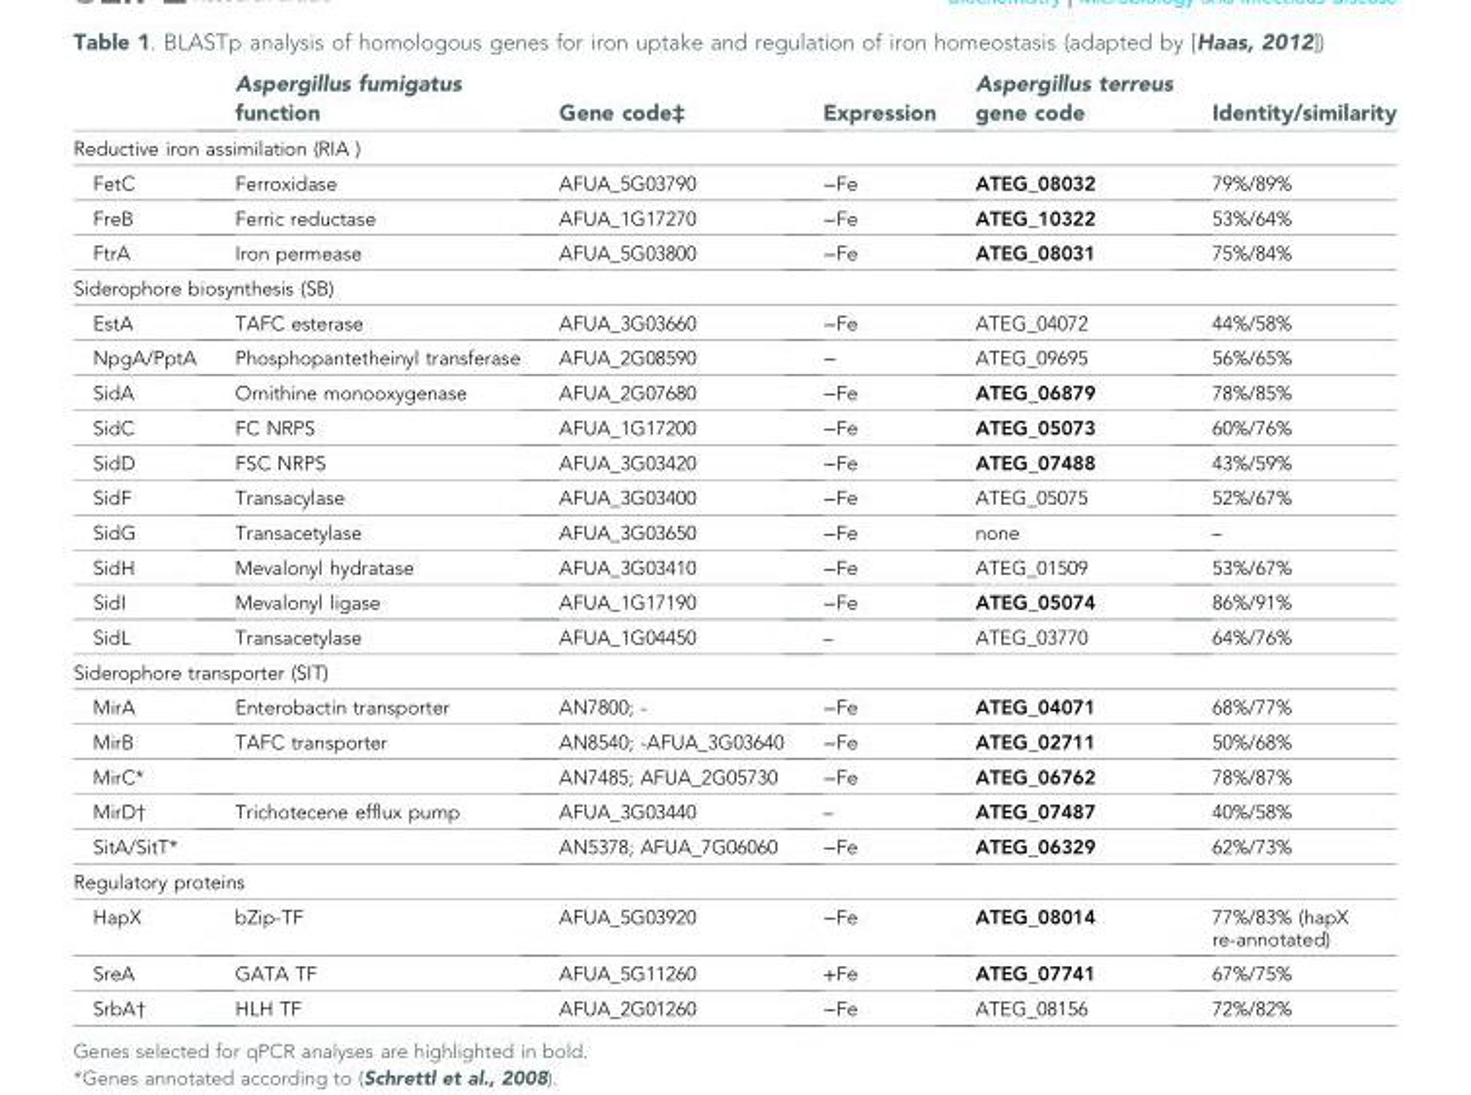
<table><thead><tr><td></td><td>Aspergillus fumigatus function</td><td>Gene code‡</td><td>Expression</td><td>Aspergillus terreus gene code</td><td>Identity/similarity</td></tr></thead><tbody><tr><td colspan="6">Reductive iron assimilation (RIA )</td></tr><tr><td>FetC</td><td>Ferroxidase</td><td>AFUA_5G03790</td><td>−Fe</td><td>ATEG_08032</td><td>79%/89%</td></tr><tr><td>FreB</td><td>Ferric reductase</td><td>AFUA_1G17270</td><td>−Fe</td><td>ATEG_10322</td><td>53%/64%</td></tr><tr><td>FtrA</td><td>Iron permease</td><td>AFUA_5G03800</td><td>−Fe</td><td>ATEG_08031</td><td>75%/84%</td></tr><tr><td colspan="6">Siderophore biosynthesis (SB)</td></tr><tr><td>EstA</td><td>TAFC esterase</td><td>AFUA_3G03660</td><td>−Fe</td><td>ATEG_04072</td><td>44%/58%</td></tr><tr><td>NpgA/PptA</td><td>Phosphopantetheinyl transferase</td><td>AFUA_2G08590</td><td>−</td><td>ATEG_09695</td><td>56%/65%</td></tr><tr><td>SidA</td><td>Ornithine monooxygenase</td><td>AFUA_2G07680</td><td>−Fe</td><td>ATEG_06879</td><td>78%/85%</td></tr><tr><td>SidC</td><td>FC NRPS</td><td>AFUA_1G17200</td><td>−Fe</td><td>ATEG_05073</td><td>60%/76%</td></tr><tr><td>SidD</td><td>FSC NRPS</td><td>AFUA_3G03420</td><td>−Fe</td><td>ATEG_07488</td><td>43%/59%</td></tr><tr><td>SidF</td><td>Transacylase</td><td>AFUA_3G03400</td><td>−Fe</td><td>ATEG_05075</td><td>52%/67%</td></tr><tr><td>SidG</td><td>Transacetylase</td><td>AFUA_3G03650</td><td>−Fe</td><td>none</td><td>–</td></tr><tr><td>SidH</td><td>Mevalonyl hydratase</td><td>AFUA_3G03410</td><td>−Fe</td><td>ATEG_01509</td><td>53%/67%</td></tr><tr><td>SidI</td><td>Mevalonyl ligase</td><td>AFUA_1G17190</td><td>−Fe</td><td>ATEG_05074</td><td>86%/91%</td></tr><tr><td>SidL</td><td>Transacetylase</td><td>AFUA_1G04450</td><td>–</td><td>ATEG_03770</td><td>64%/76%</td></tr><tr><td colspan="6">Siderophore transporter (SIT)</td></tr><tr><td>MirA</td><td>Enterobactin transporter</td><td>AN7800; -</td><td>−Fe</td><td>ATEG_04071</td><td>68%/77%</td></tr><tr><td>MirB</td><td>TAFC transporter</td><td>AN8540; -AFUA_3G03640</td><td>−Fe</td><td>ATEG_02711</td><td>50%/68%</td></tr><tr><td>MirC*</td><td></td><td>AN7485; AFUA_2G05730</td><td>−Fe</td><td>ATEG_06762</td><td>78%/87%</td></tr><tr><td>MirD†</td><td>Trichotecene efflux pump</td><td>AFUA_3G03440</td><td>–</td><td>ATEG_07487</td><td>40%/58%</td></tr><tr><td>SitA/SitT*</td><td></td><td>AN5378; AFUA_7G06060</td><td>−Fe</td><td>ATEG_06329</td><td>62%/73%</td></tr><tr><td colspan="6">Regulatory proteins</td></tr><tr><td>HapX</td><td>bZip-TF</td><td>AFUA_5G03920</td><td>−Fe</td><td>ATEG_08014</td><td>77%/83% (hapX re-annotated)</td></tr><tr><td>SreA</td><td>GATA TF</td><td>AFUA_5G11260</td><td>+Fe</td><td>ATEG_07741</td><td>67%/75%</td></tr><tr><td>SrbA†</td><td>HLH TF</td><td>AFUA_2G01260</td><td>−Fe</td><td>ATEG_08156</td><td>72%/82%</td></tr></tbody></table>